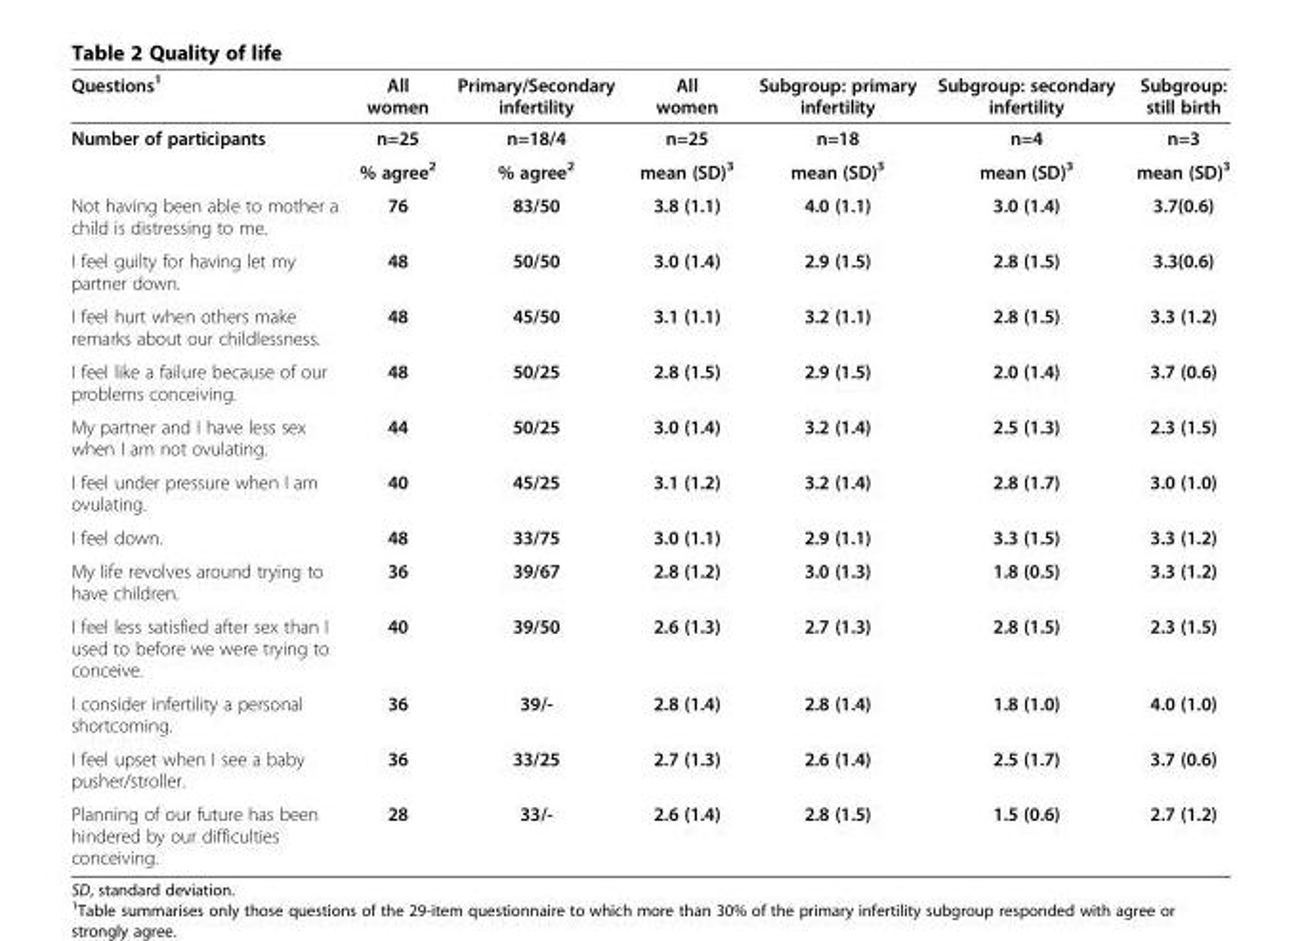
<table><thead><tr><td>Questions<sup>1</sup></td><td>All women</td><td>Primary/Secondary infertility</td><td>All women</td><td>Subgroup: primary infertility</td><td>Subgroup: secondary infertility</td><td>Subgroup: still birth</td></tr></thead><tbody><tr><td rowspan="2">Number of participants</td><td>n=25</td><td>n=18/4</td><td>n=25</td><td>n=18</td><td>n=4</td><td>n=3</td></tr><tr><td>% agree<sup>2</sup></td><td>% agree<sup>2</sup></td><td>mean (SD)<sup>3</sup></td><td>mean (SD)<sup>3</sup></td><td>mean (SD)<sup>3</sup></td><td>mean (SD)<sup>3</sup></td></tr><tr><td>Not having been able to mother a child is distressing to me.</td><td>76</td><td>83/50</td><td>3.8 (1.1)</td><td>4.0 (1.1)</td><td>3.0 (1.4)</td><td>3.7(0.6)</td></tr><tr><td>I feel guilty for having let my partner down.</td><td>48</td><td>50/50</td><td>3.0 (1.4)</td><td>2.9 (1.5)</td><td>2.8 (1.5)</td><td>3.3(0.6)</td></tr><tr><td>I feel hurt when others make remarks about our childlessness.</td><td>48</td><td>45/50</td><td>3.1 (1.1)</td><td>3.2 (1.1)</td><td>2.8 (1.5)</td><td>3.3 (1.2)</td></tr><tr><td>I feel like a failure because of our problems conceiving.</td><td>48</td><td>50/25</td><td>2.8 (1.5)</td><td>2.9 (1.5)</td><td>2.0 (1.4)</td><td>3.7 (0.6)</td></tr><tr><td>My partner and I have less sex when I am not ovulating.</td><td>44</td><td>50/25</td><td>3.0 (1.4)</td><td>3.2 (1.4)</td><td>2.5 (1.3)</td><td>2.3 (1.5)</td></tr><tr><td>I feel under pressure when I am ovulating.</td><td>40</td><td>45/25</td><td>3.1 (1.2)</td><td>3.2 (1.4)</td><td>2.8 (1.7)</td><td>3.0 (1.0)</td></tr><tr><td>I feel down.</td><td>48</td><td>33/75</td><td>3.0 (1.1)</td><td>2.9 (1.1)</td><td>3.3 (1.5)</td><td>3.3 (1.2)</td></tr><tr><td>My life revolves around trying to have children.</td><td>36</td><td>39/67</td><td>2.8 (1.2)</td><td>3.0 (1.3)</td><td>1.8 (0.5)</td><td>3.3 (1.2)</td></tr><tr><td>I feel less satisfied after sex than I used to before we were trying to conceive.</td><td>40</td><td>39/50</td><td>2.6 (1.3)</td><td>2.7 (1.3)</td><td>2.8 (1.5)</td><td>2.3 (1.5)</td></tr><tr><td>I consider infertility a personal shortcoming.</td><td>36</td><td>39/-</td><td>2.8 (1.4)</td><td>2.8 (1.4)</td><td>1.8 (1.0)</td><td>4.0 (1.0)</td></tr><tr><td>I feel upset when I see a baby pusher/stroller.</td><td>36</td><td>33/25</td><td>2.7 (1.3)</td><td>2.6 (1.4)</td><td>2.5 (1.7)</td><td>3.7 (0.6)</td></tr><tr><td>Planning of our future has been hindered by our difficulties conceiving.</td><td>28</td><td>33/-</td><td>2.6 (1.4)</td><td>2.8 (1.5)</td><td>1.5 (0.6)</td><td>2.7 (1.2)</td></tr></tbody></table>